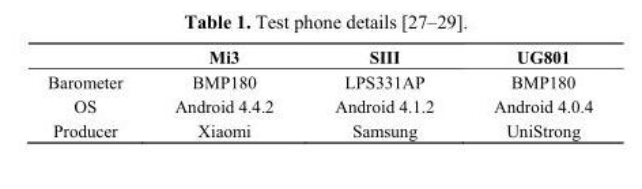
<table><thead><tr><td></td><td>Mi3</td><td>SIII</td><td>UG801</td></tr></thead><tbody><tr><td>Barometer</td><td>BMP180</td><td>LPS331AP</td><td>BMP180</td></tr><tr><td>OS</td><td>Android 4.4.2</td><td>Android 4.1.2</td><td>Android 4.0.4</td></tr><tr><td>Producer</td><td>Xiaomi</td><td>Samsung</td><td>UniStrong</td></tr></tbody></table>